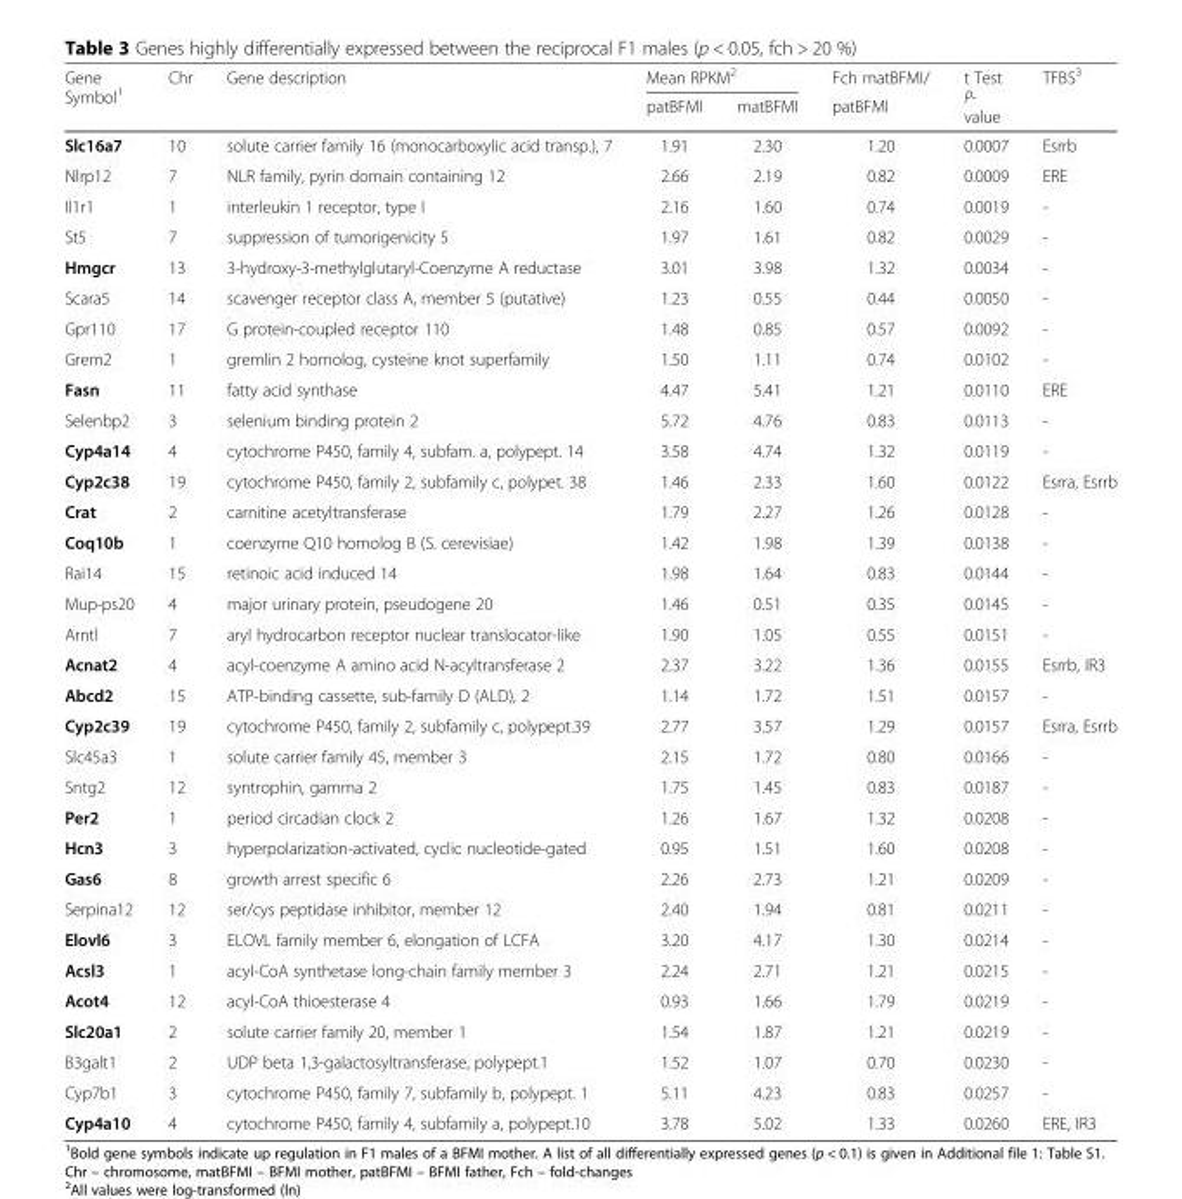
<table><thead><tr><td rowspan="2">Gene Symbol<sup>1</sup></td><td rowspan="2">Chr</td><td rowspan="2">Gene description</td><td colspan="2">Mean RPKM<sup>2</sup></td><td rowspan="2">Fch matBFMI/ patBFMI</td><td rowspan="2">t Test P- value</td><td rowspan="2">TFBS<sup>3</sup></td></tr><tr><td>patBFMI</td><td>matBFMI</td></tr></thead><tbody><tr><td>Slc16a7</td><td>10</td><td>solute carrier family 16 (monocarboxylic acid transp.), 7</td><td>1.91</td><td>2.30</td><td>1.20</td><td>0.0007</td><td>Esrrb</td></tr><tr><td>Nlrp12</td><td>7</td><td>NLR family, pyrin domain containing 12</td><td>2.66</td><td>2.19</td><td>0.82</td><td>0.0009</td><td>ERE</td></tr><tr><td>Il1r1</td><td>1</td><td>interleukin 1 receptor, type I</td><td>2.16</td><td>1.60</td><td>0.74</td><td>0.0019</td><td>-</td></tr><tr><td>St5</td><td>7</td><td>suppression of tumorigenicity 5</td><td>1.97</td><td>1.61</td><td>0.82</td><td>0.0029</td><td>-</td></tr><tr><td>Hmgcr</td><td>13</td><td>3-hydroxy-3-methylglutaryl-Coenzyme A reductase</td><td>3.01</td><td>3.98</td><td>1.32</td><td>0.0034</td><td>-</td></tr><tr><td>Scara5</td><td>14</td><td>scavenger receptor class A, member 5 (putative)</td><td>1.23</td><td>0.55</td><td>0.44</td><td>0.0050</td><td>-</td></tr><tr><td>Gpr110</td><td>17</td><td>G protein-coupled receptor 110</td><td>1.48</td><td>0.85</td><td>0.57</td><td>0.0092</td><td>-</td></tr><tr><td>Grem2</td><td>1</td><td>gremlin 2 homolog, cysteine knot superfamily</td><td>1.50</td><td>1.11</td><td>0.74</td><td>0.0102</td><td>-</td></tr><tr><td>Fasn</td><td>11</td><td>fatty acid synthase</td><td>4.47</td><td>5.41</td><td>1.21</td><td>0.0110</td><td>ERE</td></tr><tr><td>Selenbp2</td><td>3</td><td>selenium binding protein 2</td><td>5.72</td><td>4.76</td><td>0.83</td><td>0.0113</td><td>-</td></tr><tr><td>Cyp4a14</td><td>4</td><td>cytochrome P450, family 4, subfam. a, polypept. 14</td><td>3.58</td><td>4.74</td><td>1.32</td><td>0.0119</td><td>-</td></tr><tr><td>Cyp2c38</td><td>19</td><td>cytochrome P450, family 2, subfamily c, polypet. 38</td><td>1.46</td><td>2.33</td><td>1.60</td><td>0.0122</td><td>Esrra, Esrrb</td></tr><tr><td>Crat</td><td>2</td><td>carnitine acetyltransferase</td><td>1.79</td><td>2.27</td><td>1.26</td><td>0.0128</td><td>-</td></tr><tr><td>Coq10b</td><td>1</td><td>coenzyme Q10 homolog B (S. cerevisiae)</td><td>1.42</td><td>1.98</td><td>1.39</td><td>0.0138</td><td>-</td></tr><tr><td>Rai14</td><td>15</td><td>retinoic acid induced 14</td><td>1.98</td><td>1.64</td><td>0.83</td><td>0.0144</td><td>-</td></tr><tr><td>Mup-ps20</td><td>4</td><td>major urinary protein, pseudogene 20</td><td>1.46</td><td>0.51</td><td>0.35</td><td>0.0145</td><td>-</td></tr><tr><td>Arntl</td><td>7</td><td>aryl hydrocarbon receptor nuclear translocator-like</td><td>1.90</td><td>1.05</td><td>0.55</td><td>0.0151</td><td>-</td></tr><tr><td>Acnat2</td><td>4</td><td>acyl-coenzyme A amino acid N-acyltransferase 2</td><td>2.37</td><td>3.22</td><td>1.36</td><td>0.0155</td><td>Esrrb, IR3</td></tr><tr><td>Abcd2</td><td>15</td><td>ATP-binding cassette, sub-family D (ALD), 2</td><td>1.14</td><td>1.72</td><td>1.51</td><td>0.0157</td><td>-</td></tr><tr><td>Cyp2c39</td><td>19</td><td>cytochrome P450, family 2, subfamily c, polypept.39</td><td>2.77</td><td>3.57</td><td>1.29</td><td>0.0157</td><td>Esrra, Esrrb</td></tr><tr><td>Slc45a3</td><td>1</td><td>solute carrier family 45, member 3</td><td>2.15</td><td>1.72</td><td>0.80</td><td>0.0166</td><td>-</td></tr><tr><td>Sntg2</td><td>12</td><td>syntrophin, gamma 2</td><td>1.75</td><td>1.45</td><td>0.83</td><td>0.0187</td><td>-</td></tr><tr><td>Per2</td><td>1</td><td>period circadian clock 2</td><td>1.26</td><td>1.67</td><td>1.32</td><td>0.0208</td><td>-</td></tr><tr><td>Hcn3</td><td>3</td><td>hyperpolarization-activated, cyclic nucleotide-gated</td><td>0.95</td><td>1.51</td><td>1.60</td><td>0.0208</td><td>-</td></tr><tr><td>Gas6</td><td>8</td><td>growth arrest specific 6</td><td>2.26</td><td>2.73</td><td>1.21</td><td>0.0209</td><td>-</td></tr><tr><td>Serpina12</td><td>12</td><td>ser/cys peptidase inhibitor, member 12</td><td>2.40</td><td>1.94</td><td>0.81</td><td>0.0211</td><td>-</td></tr><tr><td>Elovl6</td><td>3</td><td>ELOVL family member 6, elongation of LCFA</td><td>3.20</td><td>4.17</td><td>1.30</td><td>0.0214</td><td>-</td></tr><tr><td>Acsl3</td><td>1</td><td>acyl-CoA synthetase long-chain family member 3</td><td>2.24</td><td>2.71</td><td>1.21</td><td>0.0215</td><td>-</td></tr><tr><td>Acot4</td><td>12</td><td>acyl-CoA thioesterase 4</td><td>0.93</td><td>1.66</td><td>1.79</td><td>0.0219</td><td>-</td></tr><tr><td>Slc20a1</td><td>2</td><td>solute carrier family 20, member 1</td><td>1.54</td><td>1.87</td><td>1.21</td><td>0.0219</td><td>-</td></tr><tr><td>B3galt1</td><td>2</td><td>UDP beta 1,3-galactosyltransferase, polypept.1</td><td>1.52</td><td>1.07</td><td>0.70</td><td>0.0230</td><td>-</td></tr><tr><td>Cyp7b1</td><td>3</td><td>cytochrome P450, family 7, subfamily b, polypept. 1</td><td>5.11</td><td>4.23</td><td>0.83</td><td>0.0257</td><td>-</td></tr><tr><td>Cyp4a10</td><td>4</td><td>cytochrome P450, family 4, subfamily a, polypept.10</td><td>3.78</td><td>5.02</td><td>1.33</td><td>0.0260</td><td>ERE, IR3</td></tr></tbody></table>